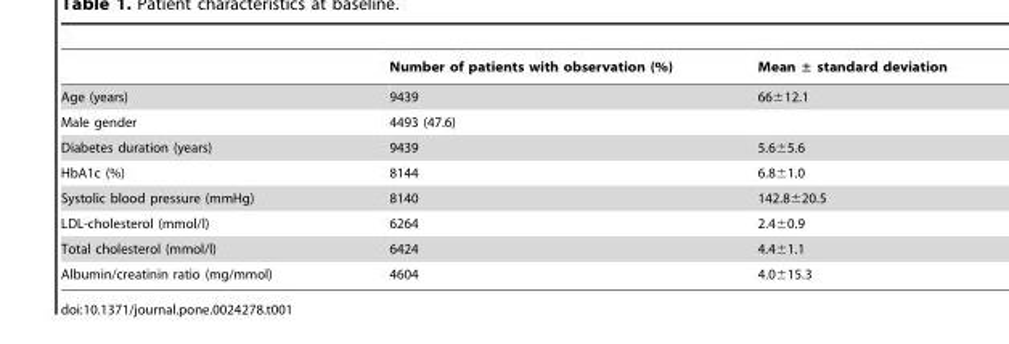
<table><thead><tr><td></td><td>Number of patients with observation (%)</td><td>Mean ± standard deviation</td></tr></thead><tbody><tr><td>Age (years)</td><td>9439</td><td>66±12.1</td></tr><tr><td>Male gender</td><td>4493 (47.6)</td><td></td></tr><tr><td>Diabetes duration (years)</td><td>9439</td><td>5.6±5.6</td></tr><tr><td>HbA1c (%)</td><td>8144</td><td>6.8±1.0</td></tr><tr><td>Systolic blood pressure (mmHg)</td><td>8140</td><td>142.8±20.5</td></tr><tr><td>LDL-cholesterol (mmol/l)</td><td>6264</td><td>2.4±0.9</td></tr><tr><td>Total cholesterol (mmol/l)</td><td>6424</td><td>4.4±1.1</td></tr><tr><td>Albumin/creatinin ratio (mg/mmol)</td><td>4604</td><td>4.0±15.3</td></tr></tbody></table>